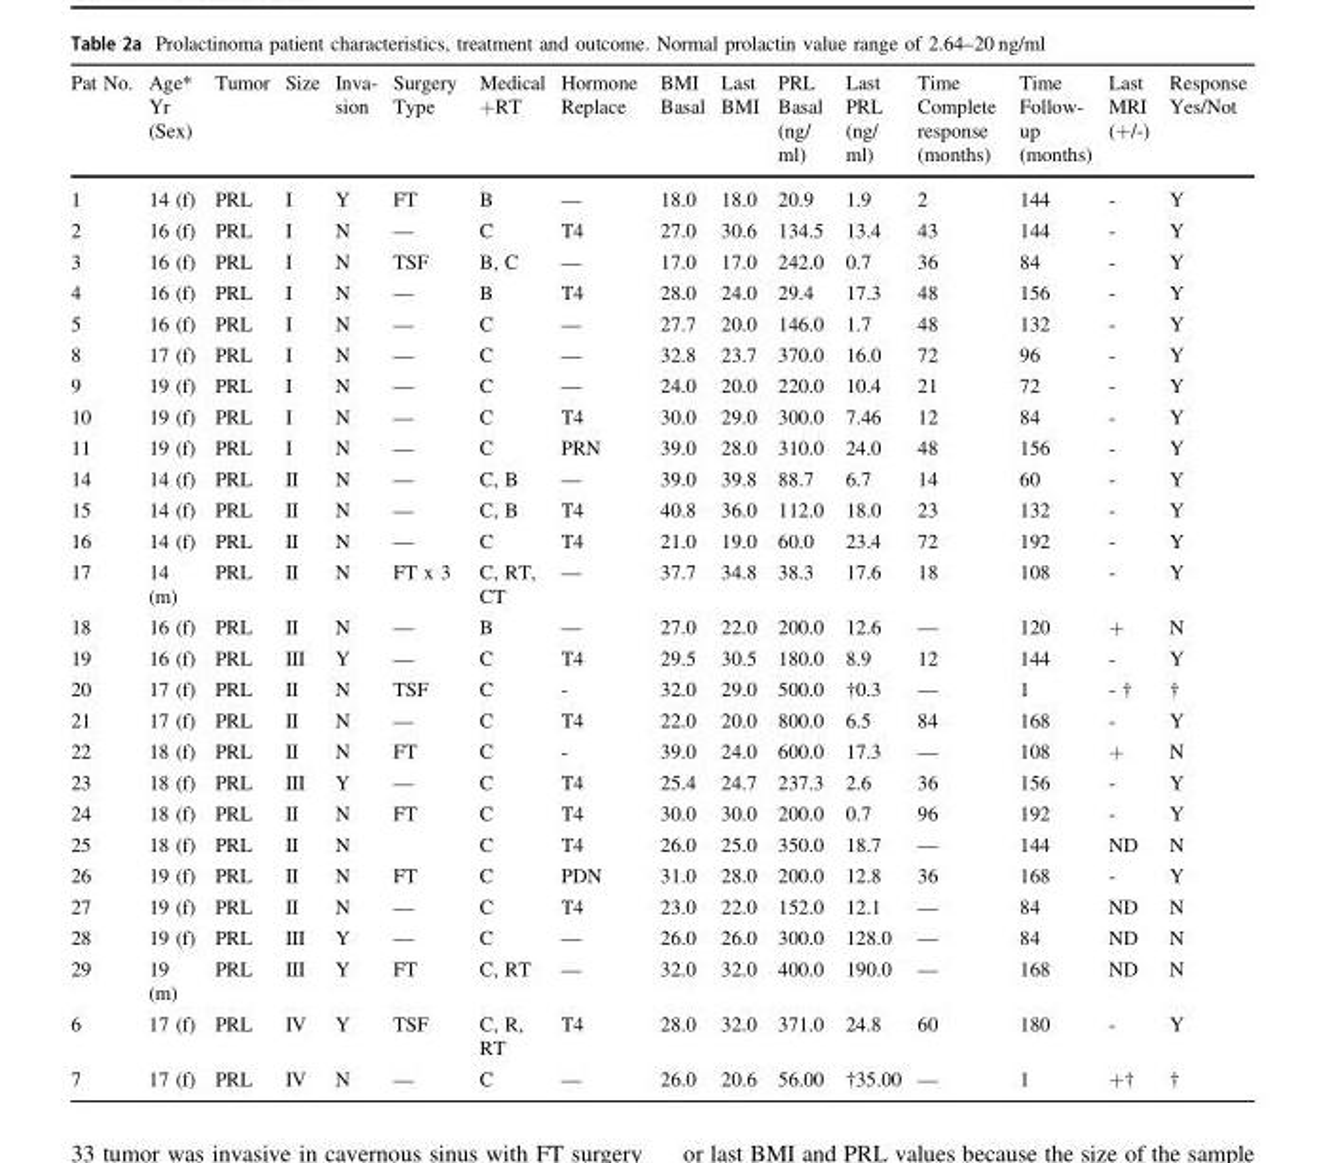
<table><thead><tr><td>Pat No.</td><td>Age* Yr (Sex)</td><td>Tumor</td><td>Size</td><td>Inva- sion</td><td>Surgery Type</td><td>Medical +RT</td><td>Hormone Replace</td><td>BMI Basal</td><td>Last BMI</td><td>PRL Basal (ng/ ml)</td><td>Last PRL (ng/ ml)</td><td>Time Complete response (months)</td><td>Time Follow- up (months)</td><td>Last MRI (+/-)</td><td>Response Yes/Not</td></tr></thead><tbody><tr><td>1</td><td>14 (f)</td><td>PRL</td><td>I</td><td>Y</td><td>FT</td><td>B</td><td>—</td><td>18.0</td><td>18.0</td><td>20.9</td><td>1.9</td><td>2</td><td>144</td><td>-</td><td>Y</td></tr><tr><td>2</td><td>16 (f)</td><td>PRL</td><td>I</td><td>N</td><td>—</td><td>C</td><td>T4</td><td>27.0</td><td>30.6</td><td>134.5</td><td>13.4</td><td>43</td><td>144</td><td>-</td><td>Y</td></tr><tr><td>3</td><td>16 (f)</td><td>PRL</td><td>I</td><td>N</td><td>TSF</td><td>B, C</td><td>—</td><td>17.0</td><td>17.0</td><td>242.0</td><td>0.7</td><td>36</td><td>84</td><td>-</td><td>Y</td></tr><tr><td>4</td><td>16 (f)</td><td>PRL</td><td>I</td><td>N</td><td>—</td><td>B</td><td>T4</td><td>28.0</td><td>24.0</td><td>29.4</td><td>17.3</td><td>48</td><td>156</td><td>-</td><td>Y</td></tr><tr><td>5</td><td>16 (f)</td><td>PRL</td><td>I</td><td>N</td><td>—</td><td>C</td><td>—</td><td>27.7</td><td>20.0</td><td>146.0</td><td>1.7</td><td>48</td><td>132</td><td>-</td><td>Y</td></tr><tr><td>8</td><td>17 (f)</td><td>PRL</td><td>I</td><td>N</td><td>—</td><td>C</td><td>—</td><td>32.8</td><td>23.7</td><td>370.0</td><td>16.0</td><td>72</td><td>96</td><td>-</td><td>Y</td></tr><tr><td>9</td><td>19 (f)</td><td>PRL</td><td>I</td><td>N</td><td>—</td><td>C</td><td>—</td><td>24.0</td><td>20.0</td><td>220.0</td><td>10.4</td><td>21</td><td>72</td><td>-</td><td>Y</td></tr><tr><td>10</td><td>19 (f)</td><td>PRL</td><td>I</td><td>N</td><td>—</td><td>C</td><td>T4</td><td>30.0</td><td>29.0</td><td>300.0</td><td>7.46</td><td>12</td><td>84</td><td>-</td><td>Y</td></tr><tr><td>11</td><td>19 (f)</td><td>PRL</td><td>I</td><td>N</td><td>—</td><td>C</td><td>PRN</td><td>39.0</td><td>28.0</td><td>310.0</td><td>24.0</td><td>48</td><td>156</td><td>-</td><td>Y</td></tr><tr><td>14</td><td>14 (f)</td><td>PRL</td><td>II</td><td>N</td><td>—</td><td>C, B</td><td>—</td><td>39.0</td><td>39.8</td><td>88.7</td><td>6.7</td><td>14</td><td>60</td><td>-</td><td>Y</td></tr><tr><td>15</td><td>14 (f)</td><td>PRL</td><td>II</td><td>N</td><td>—</td><td>C, B</td><td>T4</td><td>40.8</td><td>36.0</td><td>112.0</td><td>18.0</td><td>23</td><td>132</td><td>-</td><td>Y</td></tr><tr><td>16</td><td>14 (f)</td><td>PRL</td><td>II</td><td>N</td><td>—</td><td>C</td><td>T4</td><td>21.0</td><td>19.0</td><td>60.0</td><td>23.4</td><td>72</td><td>192</td><td>-</td><td>Y</td></tr><tr><td>17</td><td>14 (m)</td><td>PRL</td><td>II</td><td>N</td><td>FT x 3</td><td>C, RT, CT</td><td>—</td><td>37.7</td><td>34.8</td><td>38.3</td><td>17.6</td><td>18</td><td>108</td><td>-</td><td>Y</td></tr><tr><td>18</td><td>16 (f)</td><td>PRL</td><td>II</td><td>N</td><td>—</td><td>B</td><td>—</td><td>27.0</td><td>22.0</td><td>200.0</td><td>12.6</td><td>—</td><td>120</td><td>+</td><td>N</td></tr><tr><td>19</td><td>16 (f)</td><td>PRL</td><td>III</td><td>Y</td><td>—</td><td>C</td><td>T4</td><td>29.5</td><td>30.5</td><td>180.0</td><td>8.9</td><td>12</td><td>144</td><td>-</td><td>Y</td></tr><tr><td>20</td><td>17 (f)</td><td>PRL</td><td>II</td><td>N</td><td>TSF</td><td>C</td><td>-</td><td>32.0</td><td>29.0</td><td>500.0</td><td>†0.3</td><td>—</td><td>1</td><td>- †</td><td>†</td></tr><tr><td>21</td><td>17 (f)</td><td>PRL</td><td>II</td><td>N</td><td>—</td><td>C</td><td>T4</td><td>22.0</td><td>20.0</td><td>800.0</td><td>6.5</td><td>84</td><td>168</td><td>-</td><td>Y</td></tr><tr><td>22</td><td>18 (f)</td><td>PRL</td><td>II</td><td>N</td><td>FT</td><td>C</td><td>-</td><td>39.0</td><td>24.0</td><td>600.0</td><td>17.3</td><td>—</td><td>108</td><td>+</td><td>N</td></tr><tr><td>23</td><td>18 (f)</td><td>PRL</td><td>III</td><td>Y</td><td>—</td><td>C</td><td>T4</td><td>25.4</td><td>24.7</td><td>237.3</td><td>2.6</td><td>36</td><td>156</td><td>-</td><td>Y</td></tr><tr><td>24</td><td>18 (f)</td><td>PRL</td><td>II</td><td>N</td><td>FT</td><td>C</td><td>T4</td><td>30.0</td><td>30.0</td><td>200.0</td><td>0.7</td><td>96</td><td>192</td><td>-</td><td>Y</td></tr><tr><td>25</td><td>18 (f)</td><td>PRL</td><td>II</td><td>N</td><td></td><td>C</td><td>T4</td><td>26.0</td><td>25.0</td><td>350.0</td><td>18.7</td><td>—</td><td>144</td><td>ND</td><td>N</td></tr><tr><td>26</td><td>19 (f)</td><td>PRL</td><td>II</td><td>N</td><td>FT</td><td>C</td><td>PDN</td><td>31.0</td><td>28.0</td><td>200.0</td><td>12.8</td><td>36</td><td>168</td><td>-</td><td>Y</td></tr><tr><td>27</td><td>19 (f)</td><td>PRL</td><td>II</td><td>N</td><td>—</td><td>C</td><td>T4</td><td>23.0</td><td>22.0</td><td>152.0</td><td>12.1</td><td>—</td><td>84</td><td>ND</td><td>N</td></tr><tr><td>28</td><td>19 (f)</td><td>PRL</td><td>III</td><td>Y</td><td>—</td><td>C</td><td>—</td><td>26.0</td><td>26.0</td><td>300.0</td><td>128.0</td><td>—</td><td>84</td><td>ND</td><td>N</td></tr><tr><td>29</td><td>19 (m)</td><td>PRL</td><td>III</td><td>Y</td><td>FT</td><td>C, RT</td><td>—</td><td>32.0</td><td>32.0</td><td>400.0</td><td>190.0</td><td>—</td><td>168</td><td>ND</td><td>N</td></tr><tr><td>6</td><td>17 (f)</td><td>PRL</td><td>IV</td><td>Y</td><td>TSF</td><td>C, R, RT</td><td>T4</td><td>28.0</td><td>32.0</td><td>371.0</td><td>24.8</td><td>60</td><td>180</td><td>-</td><td>Y</td></tr><tr><td>7</td><td>17 (f)</td><td>PRL</td><td>IV</td><td>N</td><td>—</td><td>C</td><td>—</td><td>26.0</td><td>20.6</td><td>56.00</td><td>†35.00</td><td>—</td><td>1</td><td>+†</td><td>†</td></tr></tbody></table>